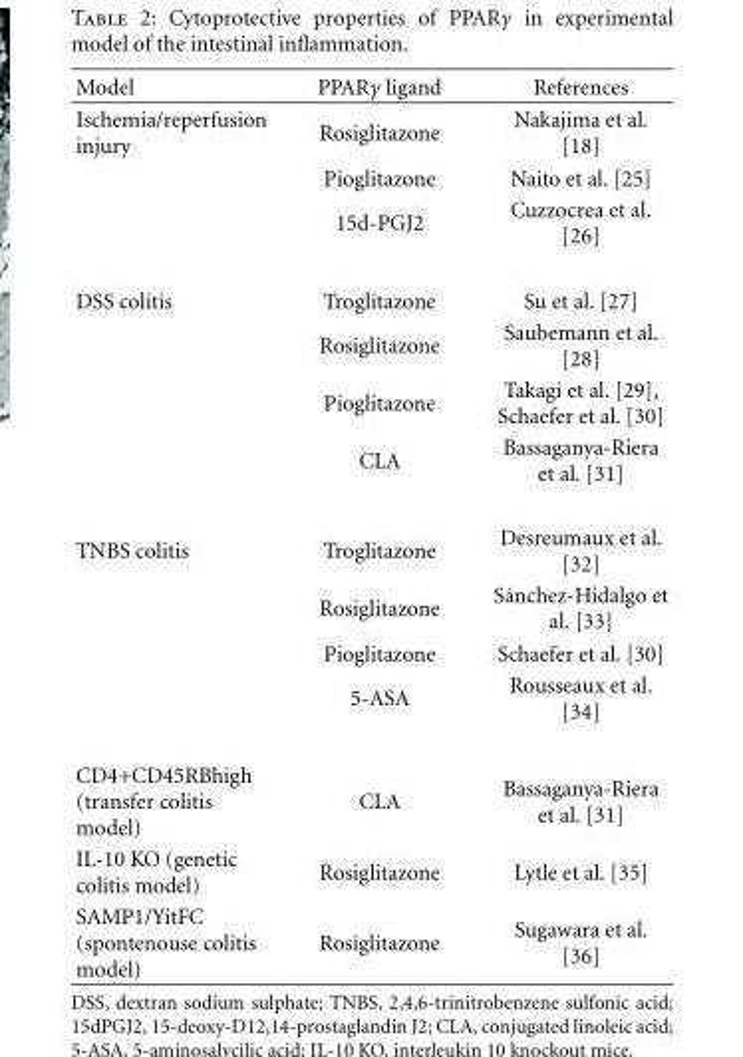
<table><thead><tr><td>Model</td><td>PPARγ ligand</td><td>References</td></tr></thead><tbody><tr><td rowspan="3">Ischemia/reperfusion injury</td><td>Rosiglitazone</td><td>Nakajima et al. [18]</td></tr><tr><td>Pioglitazone</td><td>Naito et al. [25]</td></tr><tr><td>15d-PGJ2</td><td>Cuzzocrea et al. [26]</td></tr><tr><td rowspan="4">DSS colitis</td><td>Troglitazone</td><td>Su et al. [27]</td></tr><tr><td>Rosiglitazone</td><td>Saubemann et al. [28]</td></tr><tr><td>Pioglitazone</td><td>Takagi et al. [29], Schaefer et al. [30]</td></tr><tr><td>CLA</td><td>Bassaganya-Riera et al. [31]</td></tr><tr><td rowspan="4">TNBS colitis</td><td>Troglitazone</td><td>Desreumaux et al. [32]</td></tr><tr><td>Rosiglitazone</td><td>S´anchez-Hidalgo et al. [33]</td></tr><tr><td>Pioglitazone</td><td>Schaefer et al. [30]</td></tr><tr><td>5-ASA</td><td>Rousseaux et al. [34]</td></tr><tr><td>CD4+CD45RBhigh (transfer colitis model)</td><td>CLA</td><td>Bassaganya-Riera et al. [31]</td></tr><tr><td>IL-10 KO (genetic colitis model)</td><td>Rosiglitazone</td><td>Lytle et al. [35]</td></tr><tr><td>SAMP1/YitFC (spontenouse colitis model)</td><td>Rosiglitazone</td><td>Sugawara et al. [36]</td></tr></tbody></table>